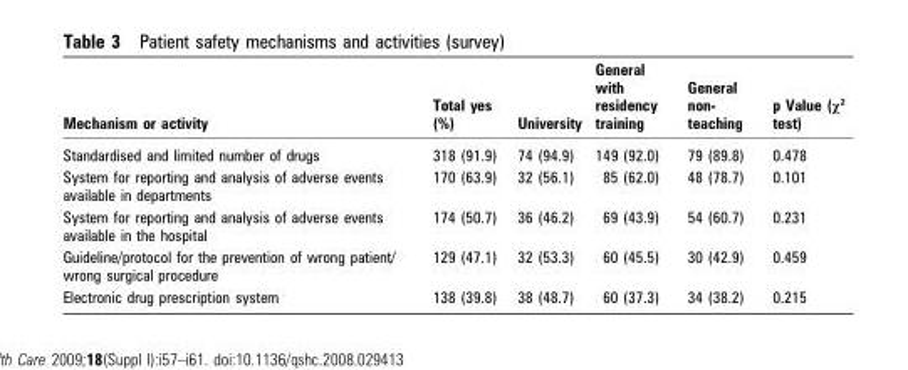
<table><thead><tr><td>Mechanism or activity</td><td>Total yes (%)</td><td>University</td><td>General with residency training</td><td>General non- teaching</td><td>p Value (χ<sup>2</sup> test)</td></tr></thead><tbody><tr><td>Standardised and limited number of drugs</td><td>318 (91.9)</td><td>74 (94.9)</td><td>149 (92.0)</td><td>79 (89.8)</td><td>0.478</td></tr><tr><td>System for reporting and analysis of adverse events available in departments</td><td>170 (63.9)</td><td>32 (56.1)</td><td>85 (62.0)</td><td>48 (78.7)</td><td>0.101</td></tr><tr><td>System for reporting and analysis of adverse events available in the hospital</td><td>174 (50.7)</td><td>36 (46.2)</td><td>69 (43.9)</td><td>54 (60.7)</td><td>0.231</td></tr><tr><td>Guideline/protocol for the prevention of wrong patient/ wrong surgical procedure</td><td>129 (47.1)</td><td>32 (53.3)</td><td>60 (45.5)</td><td>30 (42.9)</td><td>0.459</td></tr><tr><td>Electronic drug prescription system</td><td>138 (39.8)</td><td>38 (48.7)</td><td>60 (37.3)</td><td>34 (38.2)</td><td>0.215</td></tr></tbody></table>